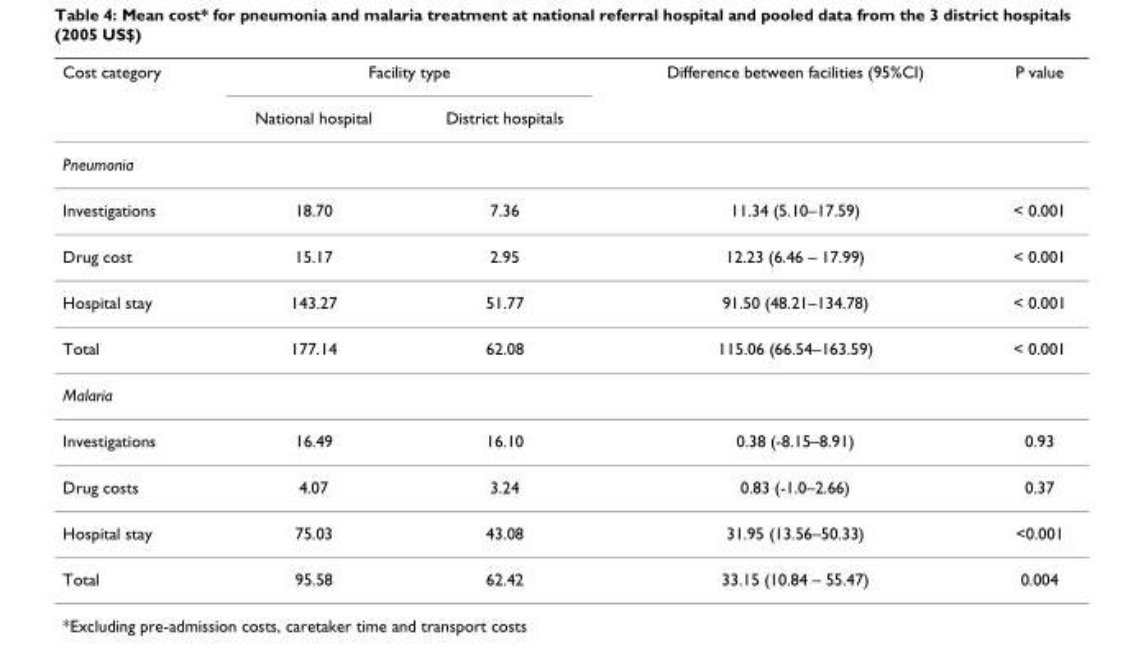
<table><thead><tr><td rowspan="2">Cost category</td><td colspan="2">Facility type</td><td rowspan="2">Difference between facilities (95%CI)</td><td rowspan="2">P value</td></tr><tr><td>National hospital</td><td>District hospitals</td></tr></thead><tbody><tr><td colspan="5">Pneumonia</td></tr><tr><td>Investigations</td><td>18.70</td><td>7.36</td><td>11.34 (5.10–17.59)</td><td>&lt; 0.001</td></tr><tr><td>Drug cost</td><td>15.17</td><td>2.95</td><td>12.23 (6.46 – 17.99)</td><td>&lt; 0.001</td></tr><tr><td>Hospital stay</td><td>143.27</td><td>51.77</td><td>91.50 (48.21–134.78)</td><td>&lt; 0.001</td></tr><tr><td>Total</td><td>177.14</td><td>62.08</td><td>115.06 (66.54–163.59)</td><td>&lt; 0.001</td></tr><tr><td colspan="5">Malaria</td></tr><tr><td>Investigations</td><td>16.49</td><td>16.10</td><td>0.38 (-8.15–8.91)</td><td>0.93</td></tr><tr><td>Drug costs</td><td>4.07</td><td>3.24</td><td>0.83 (-1.0–2.66)</td><td>0.37</td></tr><tr><td>Hospital stay</td><td>75.03</td><td>43.08</td><td>31.95 (13.56–50.33)</td><td>&lt;0.001</td></tr><tr><td>Total</td><td>95.58</td><td>62.42</td><td>33.15 (10.84 – 55.47)</td><td>0.004</td></tr></tbody></table>